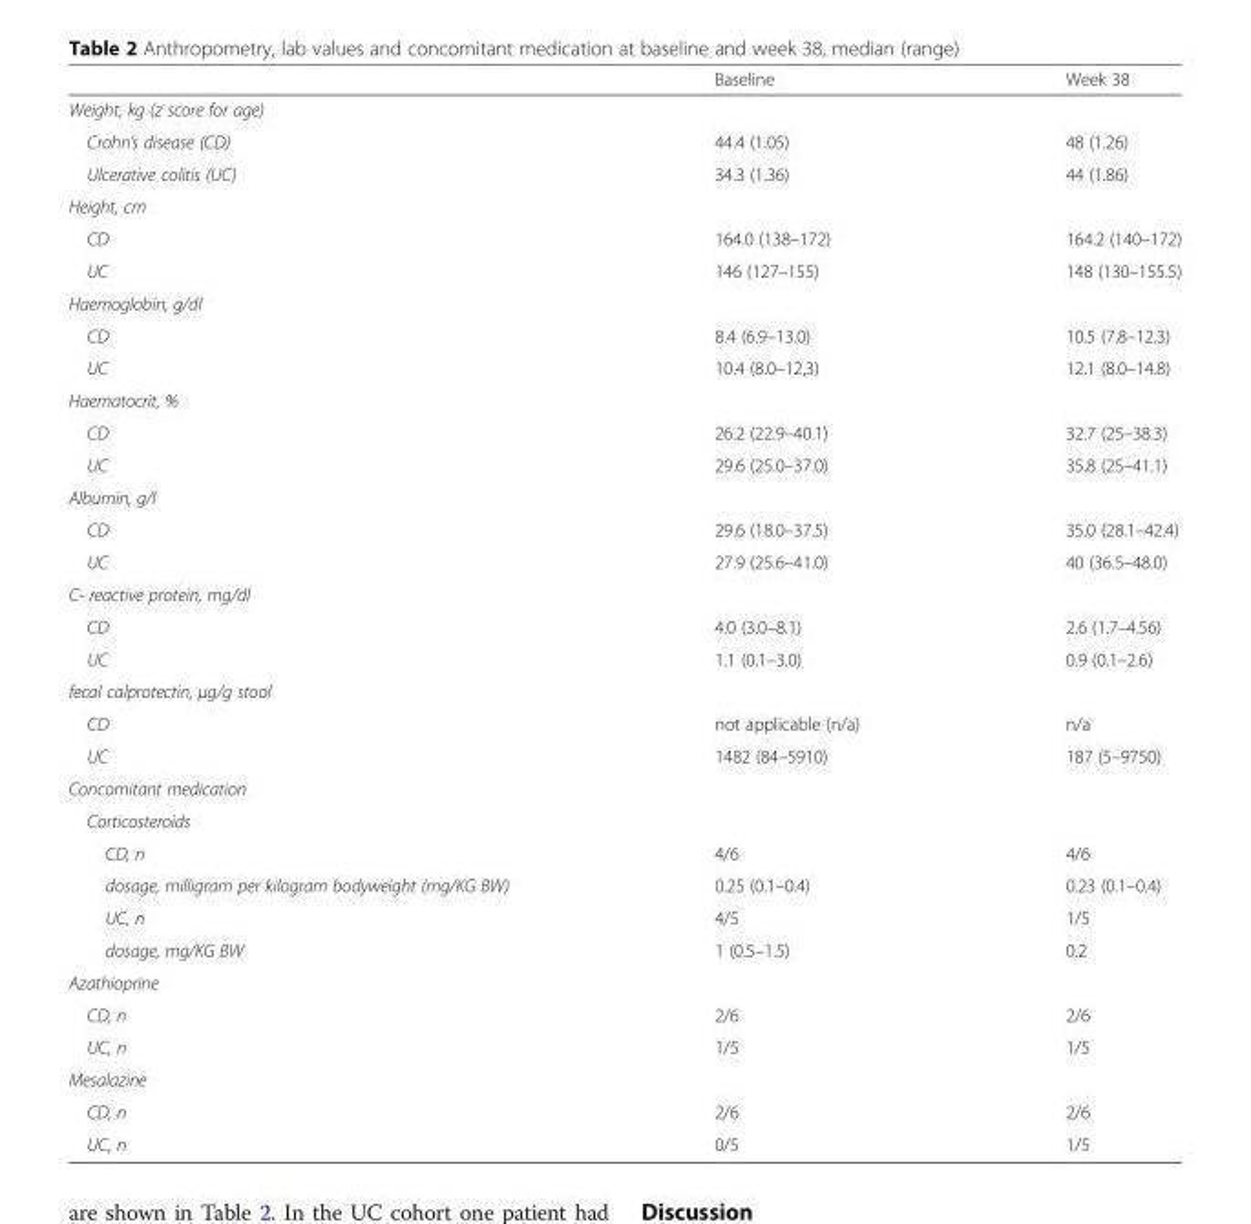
<table><thead><tr><td></td><td>Baseline</td><td>Week 38</td></tr></thead><tbody><tr><td colspan="3">Weight, kg (z score for age)</td></tr><tr><td>Crohn’s disease (CD)</td><td>44.4 (1.05)</td><td>48 (1.26)</td></tr><tr><td>Ulcerative colitis (UC)</td><td>34.3 (1.36)</td><td>44 (1.86)</td></tr><tr><td colspan="3">Height, cm</td></tr><tr><td>CD</td><td>164.0 (138–172)</td><td>164.2 (140–172)</td></tr><tr><td>UC</td><td>146 (127–155)</td><td>148 (130–155.5)</td></tr><tr><td colspan="3">Haemoglobin, g/dl</td></tr><tr><td>CD</td><td>8.4 (6.9–13.0)</td><td>10.5 (7.8–12.3)</td></tr><tr><td>UC</td><td>10.4 (8.0–12,3)</td><td>12.1 (8.0–14.8)</td></tr><tr><td colspan="3">Haematocrit, %</td></tr><tr><td>CD</td><td>26.2 (22.9–40.1)</td><td>32.7 (25–38.3)</td></tr><tr><td>UC</td><td>29.6 (25.0–37.0)</td><td>35.8 (25–41.1)</td></tr><tr><td colspan="3">Albumin, g/l</td></tr><tr><td>CD</td><td>29.6 (18.0–37.5)</td><td>35.0 (28.1–42.4)</td></tr><tr><td>UC</td><td>27.9 (25.6–41.0)</td><td>40 (36.5–48.0)</td></tr><tr><td colspan="3">C- reactive protein, mg/dl</td></tr><tr><td>CD</td><td>4.0 (3.0–8.1)</td><td>2.6 (1.7–4.56)</td></tr><tr><td>UC</td><td>1.1 (0.1–3.0)</td><td>0.9 (0.1–2.6)</td></tr><tr><td colspan="3">fecal calprotectin, μg/g stool</td></tr><tr><td>CD</td><td>not applicable (n/a)</td><td>n/a</td></tr><tr><td>UC</td><td>1482 (84–5910)</td><td>187 (5–9750)</td></tr><tr><td colspan="3">Concomitant medication</td></tr><tr><td colspan="3">Corticosteroids</td></tr><tr><td>CD, n</td><td>4/6</td><td>4/6</td></tr><tr><td>dosage, milligram per kilogram bodyweight (mg/KG BW)</td><td>0.25 (0.1–0.4)</td><td>0.23 (0.1–0.4)</td></tr><tr><td>UC, n</td><td>4/5</td><td>1/5</td></tr><tr><td>dosage, mg/KG BW</td><td>1 (0.5–1.5)</td><td>0.2</td></tr><tr><td colspan="3">Azathioprine</td></tr><tr><td>CD, n</td><td>2/6</td><td>2/6</td></tr><tr><td>UC, n</td><td>1/5</td><td>1/5</td></tr><tr><td colspan="3">Mesalazine</td></tr><tr><td>CD, n</td><td>2/6</td><td>2/6</td></tr><tr><td>UC, n</td><td>0/5</td><td>1/5</td></tr></tbody></table>